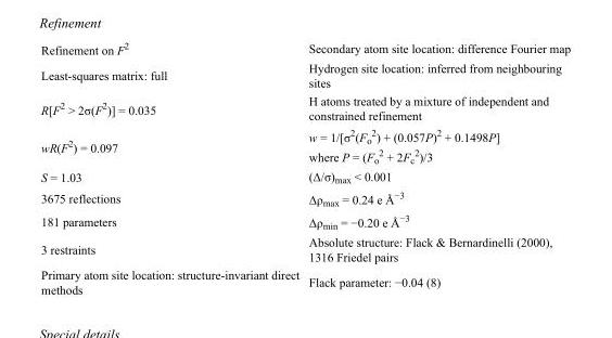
<table><tbody><tr><td>Refinement on F<sup>2</sup></td><td>Secondary atom site location: difference Fourier map</td></tr><tr><td>Least-squares matrix: full</td><td>Hydrogen site location: inferred from neighbouring sites</td></tr><tr><td>R[F<sup>2</sup> &gt; 2σ(F<sup>2</sup>)] = 0.035</td><td>H atoms treated by a mixture of independent and constrained refinement</td></tr><tr><td>wR(F<sup>2</sup>) = 0.097</td><td>w = 1/[σ<sup>2</sup>(F<sub>o</sub> <sup>2</sup>) + (0.057P)<sup>2</sup> + 0.1498P] where P = (F<sub>o</sub> <sup>2</sup> + 2F<sub>c</sub> <sup>2</sup>)/3</td></tr><tr><td>S = 1.03</td><td>(Δ/σ)<sub>max</sub> &lt; 0.001</td></tr><tr><td>3675 reflections</td><td>Δρ<sub>max</sub> = 0.24 e Å<sup>−3</sup></td></tr><tr><td>181 parameters</td><td>Δρ<sub>min</sub> = −0.20 e Å<sup>−3</sup></td></tr><tr><td>3 restraints</td><td>Absolute structure: Flack &amp; Bernardinelli (2000), 1316 Friedel pairs</td></tr><tr><td>Primary atom site location: structure-invariant direct methods</td><td>Flack parameter: −0.04 (8)</td></tr></tbody></table>